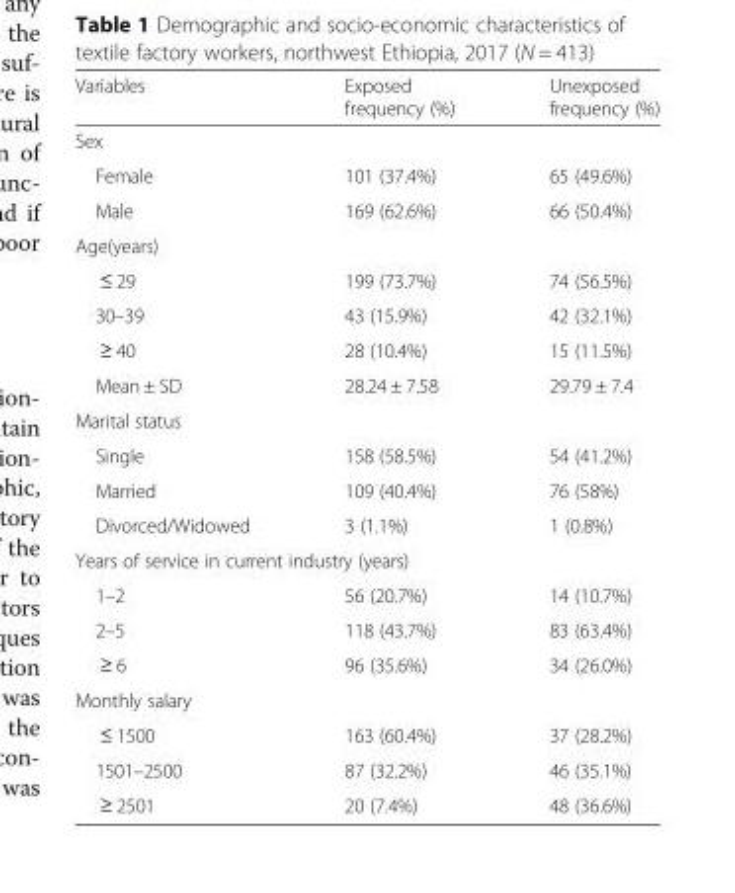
<table><thead><tr><td>Variables</td><td>Exposed frequency (%)</td><td>Unexposed frequency (%)</td></tr></thead><tbody><tr><td colspan="3">Sex</td></tr><tr><td>Female</td><td>101 (37.4%)</td><td>65 (49.6%)</td></tr><tr><td>Male</td><td>169 (62.6%)</td><td>66 (50.4%)</td></tr><tr><td colspan="3">Age(years)</td></tr><tr><td>≤ 29</td><td>199 (73.7%)</td><td>74 (56.5%)</td></tr><tr><td>30–39</td><td>43 (15.9%)</td><td>42 (32.1%)</td></tr><tr><td>≥ 40</td><td>28 (10.4%)</td><td>15 (11.5%)</td></tr><tr><td>Mean ± SD</td><td>28.24 ± 7.58</td><td>29.79 ± 7.4</td></tr><tr><td colspan="3">Marital status</td></tr><tr><td>Single</td><td>158 (58.5%)</td><td>54 (41.2%)</td></tr><tr><td>Married</td><td>109 (40.4%)</td><td>76 (58%)</td></tr><tr><td>Divorced/Widowed</td><td>3 (1.1%)</td><td>1 (0.8%)</td></tr><tr><td colspan="3">Years of service in current industry (years)</td></tr><tr><td>1–2</td><td>56 (20.7%)</td><td>14 (10.7%)</td></tr><tr><td>2–5</td><td>118 (43.7%)</td><td>83 (63.4%)</td></tr><tr><td>≥ 6</td><td>96 (35.6%)</td><td>34 (26.0%)</td></tr><tr><td colspan="3">Monthly salary</td></tr><tr><td>≤ 1500</td><td>163 (60.4%)</td><td>37 (28.2%)</td></tr><tr><td>1501–2500</td><td>87 (32.2%)</td><td>46 (35.1%)</td></tr><tr><td>≥ 2501</td><td>20 (7.4%)</td><td>48 (36.6%)</td></tr></tbody></table>